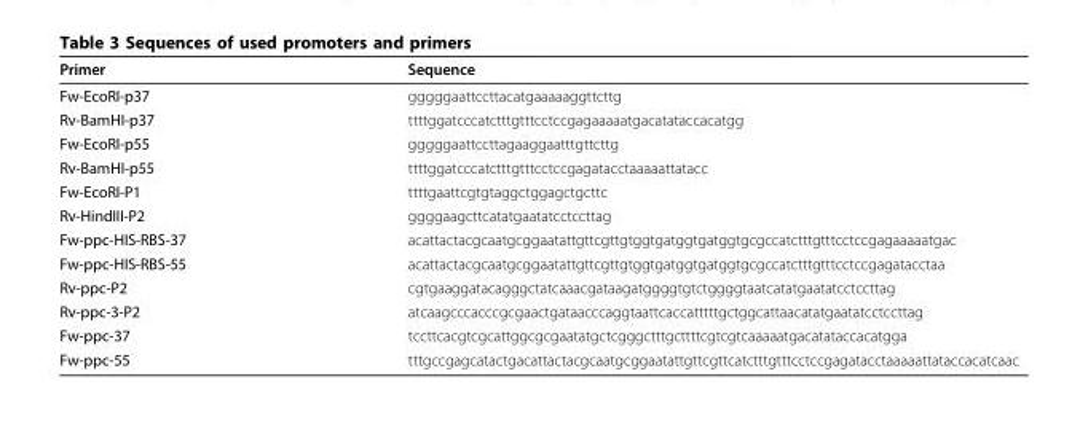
<table><thead><tr><td>Primer</td><td>Sequence</td></tr></thead><tbody><tr><td>Fw-EcoRI-p37</td><td>gggggaattccttacatgaaaaaggttcttg</td></tr><tr><td>Rv-BamHI-p37</td><td>ttttggatcccatctttgtttcctccgagaaaaatgacatataccacatgg</td></tr><tr><td>Fw-EcoRI-p55</td><td>gggggaattccttagaaggaatttgttcttg</td></tr><tr><td>Rv-BamHI-p55</td><td>ttttggatcccatctttgtttcctccgagatacctaaaaattatacc</td></tr><tr><td>Fw-EcoRI-P1</td><td>ttttgaattcgtgtaggctggagctgcttc</td></tr><tr><td>Rv-HindIII-P2</td><td>ggggaagcttcatatgaatatcctccttag</td></tr><tr><td>Fw-ppc-HIS-RBS-37</td><td>acattactacgcaatgcggaatattgttcgttgtggtgatggtgatggtgcgccatctttgtttcctccgagaaaaatgac</td></tr><tr><td>Fw-ppc-HIS-RBS-55</td><td>acattactacgcaatgcggaatattgttcgttgtggtgatggtgatggtgcgccatctttgtttcctccgagatacctaa</td></tr><tr><td>Rv-ppc-P2</td><td>cgtgaaggatacagggctatcaaacgataagatggggtgtctggggtaatcatatgaatatcctccttag</td></tr><tr><td>Rv-ppc-3-P2</td><td>atcaagcccacccgcgaactgataacccaggtaattcaccatttttgctggcattaacatatgaatatcctccttag</td></tr><tr><td>Fw-ppc-37</td><td>tccttcacgtcgcattggcgcgaatatgctcgggctttgcttttcgtcgtcaaaaatgacatataccacatgga</td></tr><tr><td>Fw-ppc-55</td><td>tttgccgagcatactgacattactacgcaatgcggaatattgttcgttcatctttgtttcctccgagatacctaaaaattataccacatcaac</td></tr></tbody></table>